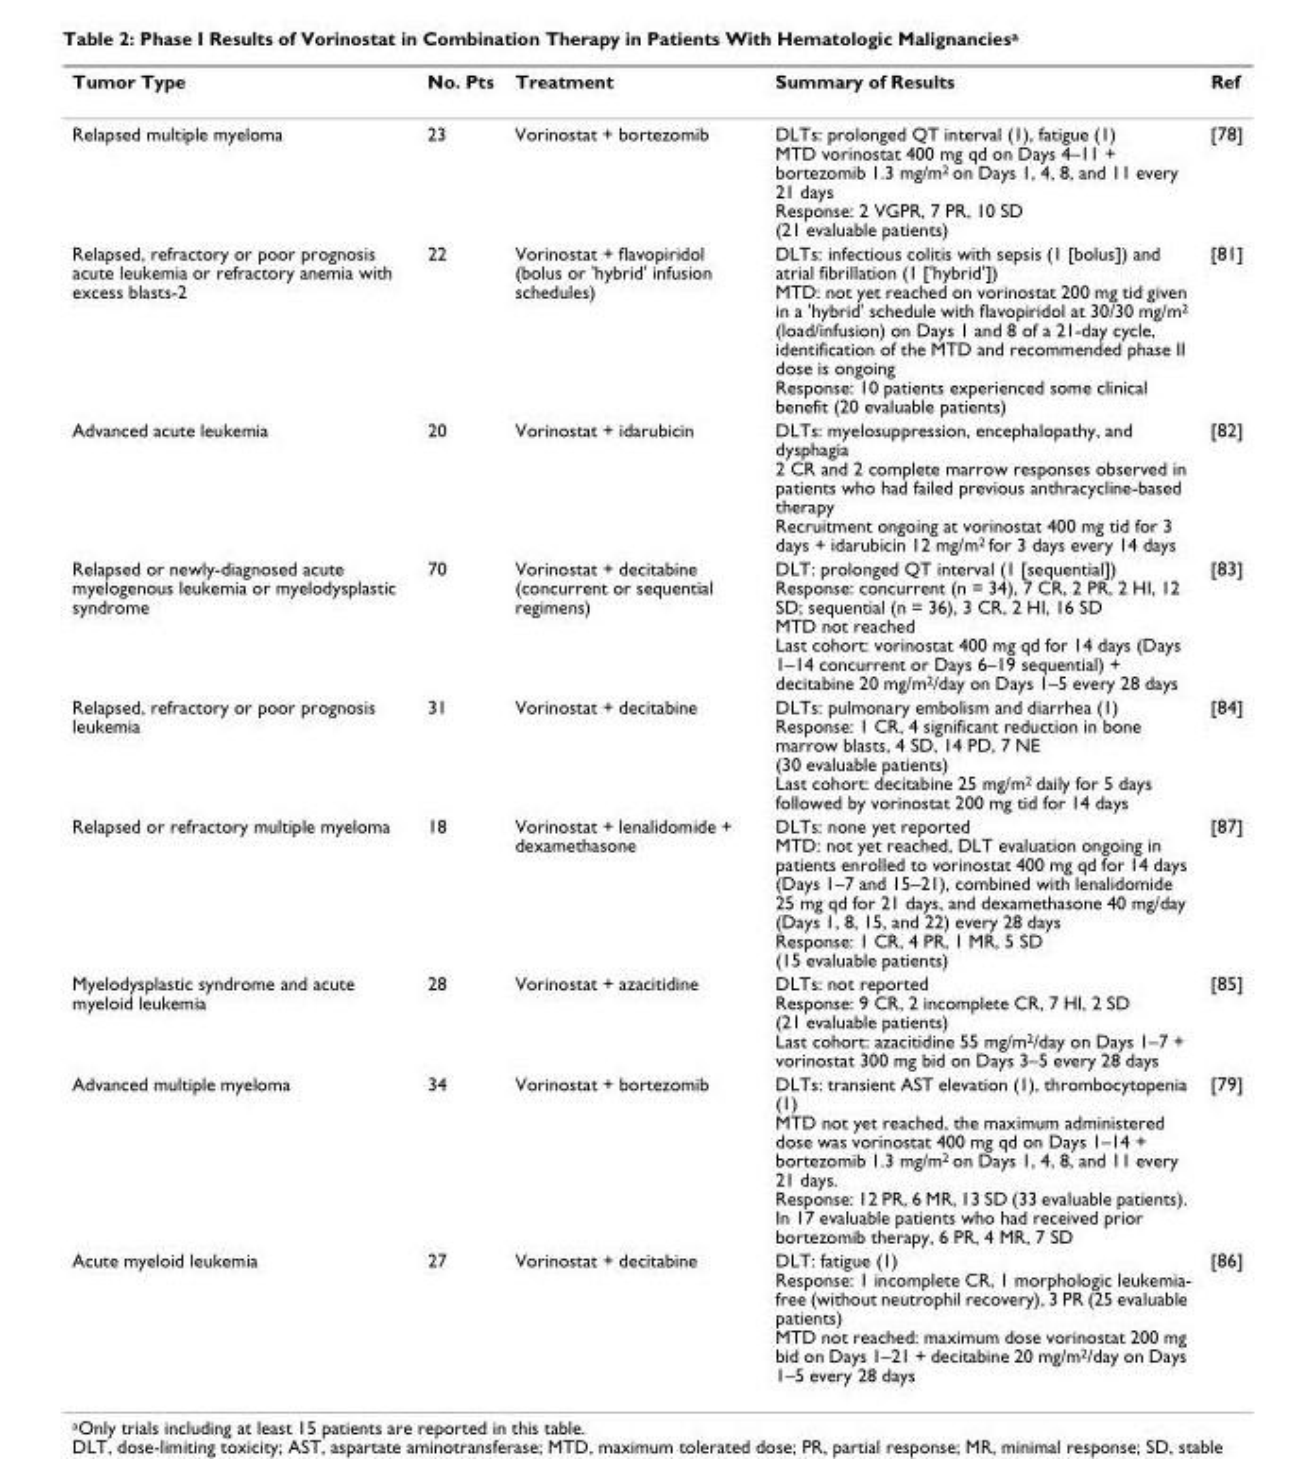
<table><thead><tr><td>Tumor Type</td><td>No. Pts</td><td>Treatment</td><td>Summary of Results</td><td>Ref</td></tr></thead><tbody><tr><td>Relapsed multiple myeloma</td><td>23</td><td>Vorinostat + bortezomib</td><td>DLTs: prolonged QT interval (1), fatigue (1) MTD vorinostat 400 mg qd on Days 4–11 + bortezomib 1.3 mg/m<sup>2</sup> on Days 1, 4, 8, and 11 every 21 days Response: 2 VGPR, 7 PR, 10 SD (21 evaluable patients)</td><td>[78]</td></tr><tr><td>Relapsed, refractory or poor prognosis acute leukemia or refractory anemia with excess blasts-2</td><td>22</td><td>Vorinostat + flavopiridol (bolus or &#x27;hybrid&#x27; infusion schedules)</td><td>DLTs: infectious colitis with sepsis (1 [bolus]) and atrial fibrillation (1 [&#x27;hybrid&#x27;]) MTD: not yet reached on vorinostat 200 mg tid given in a &#x27;hybrid&#x27; schedule with flavopiridol at 30/30 mg/m<sup>2</sup> (load/infusion) on Days 1 and 8 of a 21-day cycle, identification of the MTD and recommended phase II dose is ongoing Response: 10 patients experienced some clinical benefit (20 evaluable patients)</td><td>[81]</td></tr><tr><td>Advanced acute leukemia</td><td>20</td><td>Vorinostat + idarubicin</td><td>DLTs: myelosuppression, encephalopathy, and dysphagia 2 CR and 2 complete marrow responses observed in patients who had failed previous anthracycline-based therapy Recruitment ongoing at vorinostat 400 mg tid for 3 days + idarubicin 12 mg/m<sup>2</sup> for 3 days every 14 days</td><td>[82]</td></tr><tr><td>Relapsed or newly-diagnosed acute myelogenous leukemia or myelodysplastic syndrome</td><td>70</td><td>Vorinostat + decitabine (concurrent or sequential regimens)</td><td>DLT: prolonged QT interval (1 [sequential]) Response: concurrent (n = 34), 7 CR, 2 PR, 2 HI, 12 SD; sequential (n = 36), 3 CR, 2 HI, 16 SD MTD not reached Last cohort: vorinostat 400 mg qd for 14 days (Days 1–14 concurrent or Days 6–19 sequential) + decitabine 20 mg/m<sup>2</sup>/day on Days 1–5 every 28 days</td><td>[83]</td></tr><tr><td>Relapsed, refractory or poor prognosis leukemia</td><td>31</td><td>Vorinostat + decitabine</td><td>DLTs: pulmonary embolism and diarrhea (1) Response: 1 CR, 4 significant reduction in bone marrow blasts, 4 SD, 14 PD, 7 NE (30 evaluable patients) Last cohort: decitabine 25 mg/m<sup>2</sup> daily for 5 days followed by vorinostat 200 mg tid for 14 days</td><td>[84]</td></tr><tr><td>Relapsed or refractory multiple myeloma</td><td>18</td><td>Vorinostat + lenalidomide + dexamethasone</td><td>DLTs: none yet reported MTD: not yet reached, DLT evaluation ongoing in patients enrolled to vorinostat 400 mg qd for 14 days (Days 1–7 and 15–21), combined with lenalidomide 25 mg qd for 21 days, and dexamethasone 40 mg/day (Days 1, 8, 15, and 22) every 28 days Response: 1 CR, 4 PR, 1 MR, 5 SD (15 evaluable patients)</td><td>[87]</td></tr><tr><td>Myelodysplastic syndrome and acute myeloid leukemia</td><td>28</td><td>Vorinostat + azacitidine</td><td>DLTs: not reported Response: 9 CR, 2 incomplete CR, 7 HI, 2 SD (21 evaluable patients) Last cohort: azacitidine 55 mg/m<sup>2</sup>/day on Days 1–7 + vorinostat 300 mg bid on Days 3–5 every 28 days</td><td>[85]</td></tr><tr><td>Advanced multiple myeloma</td><td>34</td><td>Vorinostat + bortezomib</td><td>DLTs: transient AST elevation (1), thrombocytopenia (1) MTD not yet reached, the maximum administered dose was vorinostat 400 mg qd on Days 1–14 + bortezomib 1.3 mg/m<sup>2</sup> on Days 1, 4, 8, and 11 every 21 days. Response: 12 PR, 6 MR, 13 SD (33 evaluable patients). In 17 evaluable patients who had received prior bortezomib therapy, 6 PR, 4 MR, 7 SD</td><td>[79]</td></tr><tr><td>Acute myeloid leukemia</td><td>27</td><td>Vorinostat + decitabine</td><td>DLT: fatigue (1) Response: 1 incomplete CR, 1 morphologic leukemia- free (without neutrophil recovery), 3 PR (25 evaluable patients) MTD not reached: maximum dose vorinostat 200 mg bid on Days 1–21 + decitabine 20 mg/m<sup>2</sup>/day on Days 1–5 every 28 days</td><td>[86]</td></tr></tbody></table>